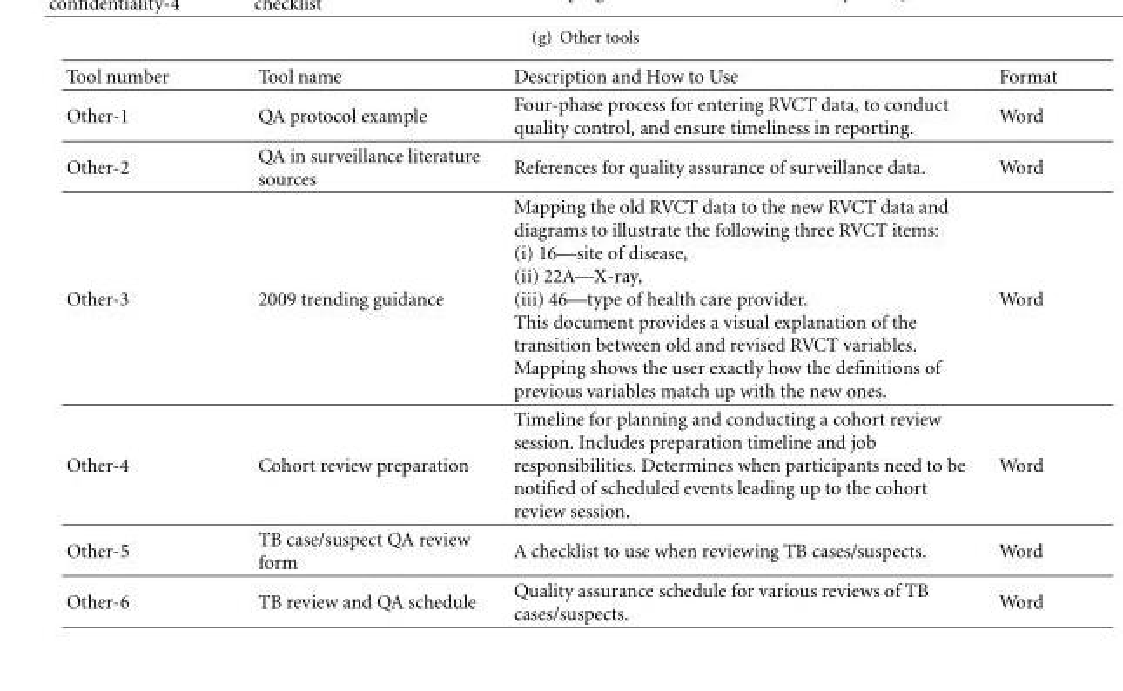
<table><thead><tr><td>Tool number</td><td>Tool name</td><td>Description and How to Use</td><td>Format</td></tr></thead><tbody><tr><td>Other-1</td><td>QA protocol example</td><td>Four-phase process for entering RVCT data, to conduct quality control, and ensure timeliness in reporting.</td><td>Word</td></tr><tr><td>Other-2</td><td>QA in surveillance literature sources</td><td>References for quality assurance of surveillance data.</td><td>Word</td></tr><tr><td>Other-3</td><td>2009 trending guidance</td><td>Mapping the old RVCT data to the new RVCT data and diagrams to illustrate the following three RVCT items: (i) 16—site of disease, (ii) 22A—X-ray, (iii) 46—type of health care provider. This document provides a visual explanation of the transition between old and revised RVCT variables. Mapping shows the user exactly how the definitions of previous variables match up with the new ones.</td><td>Word</td></tr><tr><td>Other-4</td><td>Cohort review preparation</td><td>Timeline for planning and conducting a cohort review session. Includes preparation timeline and job responsibilities. Determines when participants need to be notified of scheduled events leading up to the cohort review session.</td><td>Word</td></tr><tr><td>Other-5</td><td>TB case/suspect QA review form</td><td>A checklist to use when reviewing TB cases/suspects.</td><td>Word</td></tr><tr><td>Other-6</td><td>TB review and QA schedule</td><td>Quality assurance schedule for various reviews of TB cases/suspects.</td><td>Word</td></tr></tbody></table>